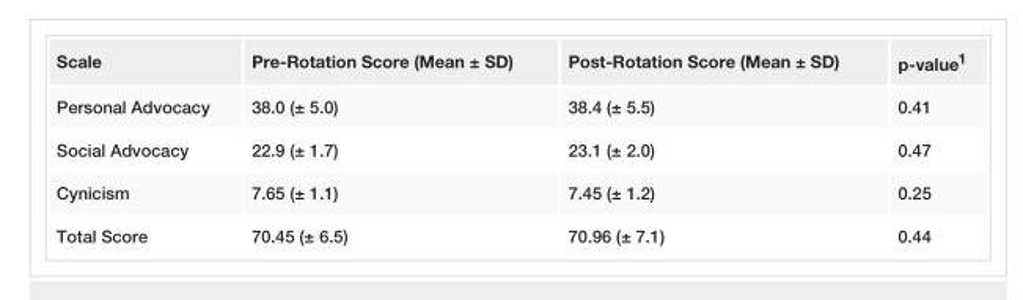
<table><tbody><tr><td>Scale</td><td>Pre-Rotation Score (Mean ± SD)</td><td>Post-Rotation Score (Mean ± SD)</td><td>p-value<sup>1</sup></td></tr><tr><td>Personal Advocacy</td><td>38.0 (± 5.0)</td><td>38.4 (± 5.5)</td><td>0.41</td></tr><tr><td>Social Advocacy</td><td>22.9 (± 1.7)</td><td>23.1 (± 2.0)</td><td>0.47</td></tr><tr><td>Cynicism</td><td>7.65 (± 1.1)</td><td>7.45 (± 1.2)</td><td>0.25</td></tr><tr><td>Total Score</td><td>70.45 (± 6.5)</td><td>70.96 (± 7.1)</td><td>0.44</td></tr></tbody></table>